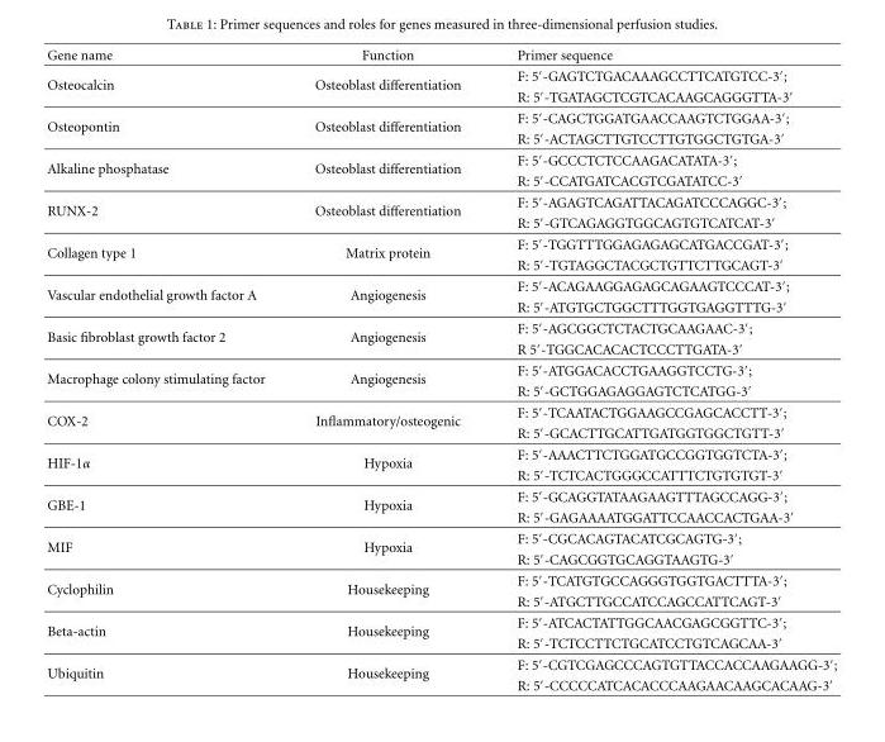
<table><thead><tr><td>Gene name</td><td>Function</td><td>Primer sequence</td></tr></thead><tbody><tr><td rowspan="2">Osteocalcin</td><td rowspan="2">Osteoblast differentiation</td><td>F: 5′-GAGTCTGACAAAGCCTTCATGTCC-3′;</td></tr><tr><td>R: 5′-TGATAGCTCGTCACAAGCAGGGTTA-3′</td></tr><tr><td rowspan="2">Osteopontin</td><td rowspan="2">Osteoblast differentiation</td><td>F: 5′-CAGCTGGATGAACCAAGTCTGGAA-3′;</td></tr><tr><td>R: 5′-ACTAGCTTGTCCTTGTGGCTGTGA-3′</td></tr><tr><td rowspan="2">Alkaline phosphatase</td><td rowspan="2">Osteoblast differentiation</td><td>F: 5′-GCCCTCTCCAAGACATATA-3′;</td></tr><tr><td>R: 5′-CCATGATCACGTCGATATCC-3′</td></tr><tr><td rowspan="2">RUNX-2</td><td rowspan="2">Osteoblast differentiation</td><td>F: 5′-AGAGTCAGATTACAGATCCCAGGC-3′;</td></tr><tr><td>R: 5′-GTCAGAGGTGGCAGTGTCATCAT-3′</td></tr><tr><td rowspan="2">Collagen type 1</td><td rowspan="2">Matrix protein</td><td>F: 5′-TGGTTTGGAGAGAGCATGACCGAT-3′;</td></tr><tr><td>R: 5′-TGTAGGCTACGCTGTTCTTGCAGT-3′</td></tr><tr><td rowspan="2">Vascular endothelial growth factor A</td><td rowspan="2">Angiogenesis</td><td>F: 5′-ACAGAAGGAGAGCAGAAGTCCCAT-3′;</td></tr><tr><td>R: 5′-ATGTGCTGGCTTTGGTGAGGTTTG-3′</td></tr><tr><td rowspan="2">Basic fibroblast growth factor 2</td><td rowspan="2">Angiogenesis</td><td>F: 5′-AGCGGCTCTACTGCAAGAAC-3′;</td></tr><tr><td>R 5′-TGGCACACACTCCCTTGATA-3′</td></tr><tr><td rowspan="2">Macrophage colony stimulating factor</td><td rowspan="2">Angiogenesis</td><td>F: 5′-ATGGACACCTGAAGGTCCTG-3′;</td></tr><tr><td>R: 5′-GCTGGAGAGGAGTCTCATGG-3′</td></tr><tr><td rowspan="2">COX-2</td><td rowspan="2">Inflammatory/osteogenic</td><td>F: 5′-TCAATACTGGAAGCCGAGCACCTT-3′;</td></tr><tr><td>R: 5′-GCACTTGCATTGATGGTGGCTGTT-3′</td></tr><tr><td rowspan="2">HIF-1α</td><td rowspan="2">Hypoxia</td><td>F: 5′-AAACTTCTGGATGCCGGTGGTCTA-3′;</td></tr><tr><td>R: 5′-TCTCACTGGGCCATTTCTGTGTGT-3′</td></tr><tr><td rowspan="2">GBE-1</td><td rowspan="2">Hypoxia</td><td>F: 5′-GCAGGTATAAGAAGTTTAGCCAGG-3′;</td></tr><tr><td>R: 5′-GAGAAAATGGATTCCAACCACTGAA-3′</td></tr><tr><td rowspan="2">MIF</td><td rowspan="2">Hypoxia</td><td>F: 5′-CGCACAGTACATCGCAGTG-3′;</td></tr><tr><td>R: 5′-CAGCGGTGCAGGTAAGTG-3′</td></tr><tr><td rowspan="2">Cyclophilin</td><td rowspan="2">Housekeeping</td><td>F: 5′-TCATGTGCCAGGGTGGTGACTTTA-3′;</td></tr><tr><td>R: 5′-ATGCTTGCCATCCAGCCATTCAGT-3′</td></tr><tr><td rowspan="2">Beta-actin</td><td rowspan="2">Housekeeping</td><td>F: 5′-ATCACTATTGGCAACGAGCGGTTC-3′;</td></tr><tr><td>R: 5′-TCTCCTTCTGCATCCTGTCAGCAA-3′</td></tr><tr><td rowspan="2">Ubiquitin</td><td rowspan="2">Housekeeping</td><td>F: 5′-CGTCGAGCCCAGTGTTACCACCAAGAAGG-3′;</td></tr><tr><td>R: 5′-CCCCCATCACACCCAAGAACAAGCACAAG-3′</td></tr></tbody></table>